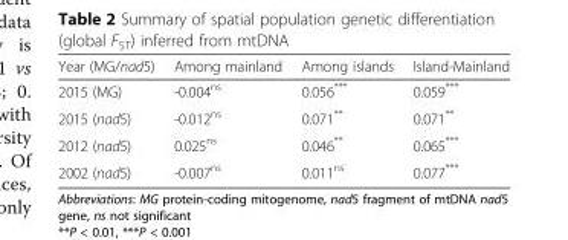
<table><thead><tr><td>Year (MG/nad5)</td><td>Among mainland</td><td>Among islands</td><td>Island-Mainland</td></tr></thead><tbody><tr><td>2015 (MG)</td><td>-0.004<sup>ns</sup></td><td>0.056***</td><td>0.059***</td></tr><tr><td>2015 (nad5)</td><td>-0.012<sup>ns</sup></td><td>0.071**</td><td>0.071**</td></tr><tr><td>2012 (nad5)</td><td>0.025<sup>ns</sup></td><td>0.046**</td><td>0.065***</td></tr><tr><td>2002 (nad5)</td><td>-0.007<sup>ns</sup></td><td>0.011<sup>ns</sup></td><td>0.077***</td></tr></tbody></table>